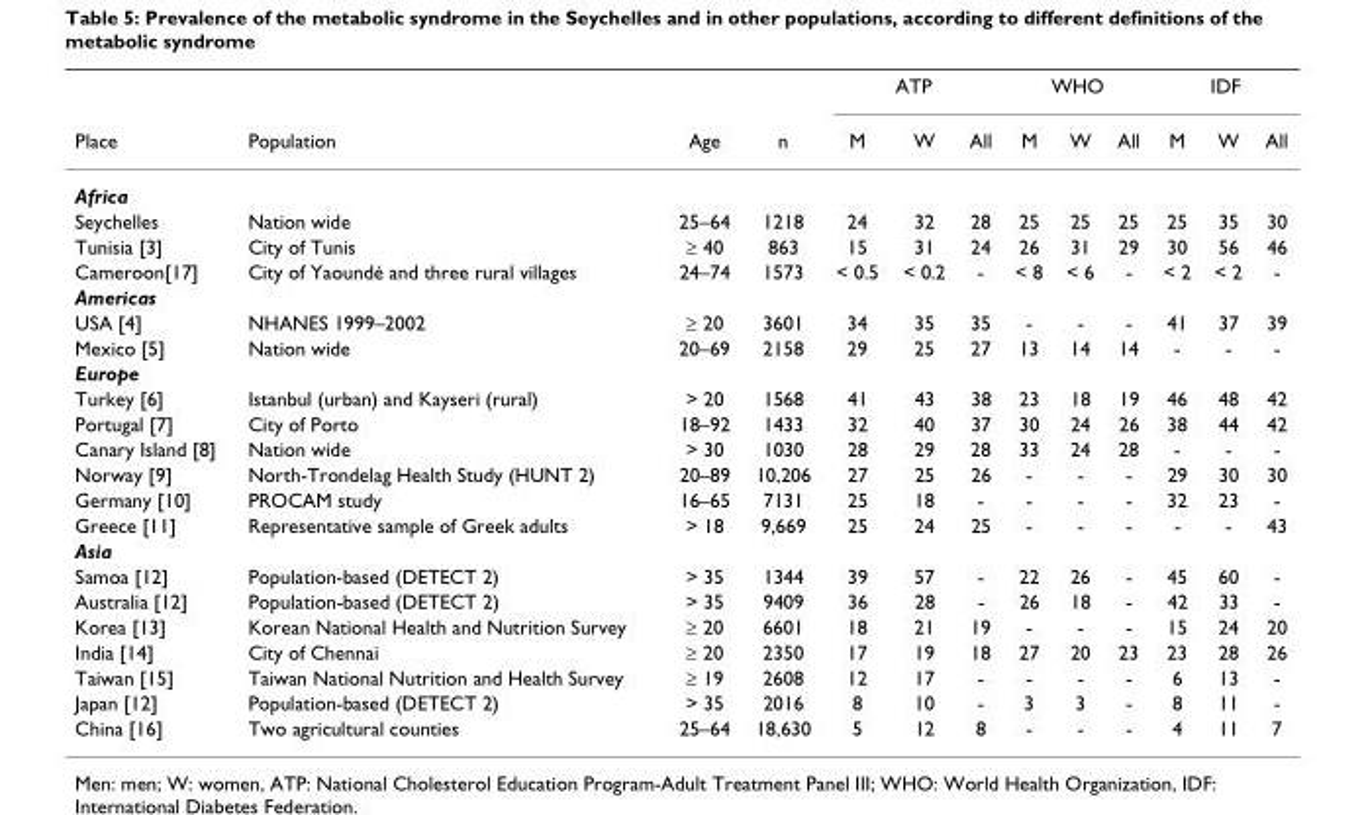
<table><thead><tr><td rowspan="2">Place</td><td rowspan="2">Population</td><td rowspan="2">Age</td><td rowspan="2">n</td><td colspan="3">ATP</td><td colspan="3">WHO</td><td colspan="3">IDF</td></tr><tr><td>M</td><td>W</td><td>All</td><td>M</td><td>W</td><td>All</td><td>M</td><td>W</td><td>All</td></tr></thead><tbody><tr><td colspan="13">Africa</td></tr><tr><td>Seychelles</td><td>Nation wide</td><td>25–64</td><td>1218</td><td>24</td><td>32</td><td>28</td><td>25</td><td>25</td><td>25</td><td>25</td><td>35</td><td>30</td></tr><tr><td>Tunisia [3]</td><td>City of Tunis</td><td>≥ 40</td><td>863</td><td>15</td><td>31</td><td>24</td><td>26</td><td>31</td><td>29</td><td>30</td><td>56</td><td>46</td></tr><tr><td>Cameroon[17]</td><td>City of Yaoundé and three rural villages</td><td>24–74</td><td>1573</td><td>&lt; 0.5</td><td>&lt; 0.2</td><td>-</td><td>&lt; 8</td><td>&lt; 6</td><td>-</td><td>&lt; 2</td><td>&lt; 2</td><td>-</td></tr><tr><td colspan="13">Americas</td></tr><tr><td>USA [4]</td><td>NHANES 1999–2002</td><td>≥ 20</td><td>3601</td><td>34</td><td>35</td><td>35</td><td>-</td><td>-</td><td>-</td><td>41</td><td>37</td><td>39</td></tr><tr><td>Mexico [5]</td><td>Nation wide</td><td>20–69</td><td>2158</td><td>29</td><td>25</td><td>27</td><td>13</td><td>14</td><td>14</td><td>-</td><td>-</td><td>-</td></tr><tr><td colspan="13">Europe</td></tr><tr><td>Turkey [6]</td><td>Istanbul (urban) and Kayseri (rural)</td><td>&gt; 20</td><td>1568</td><td>41</td><td>43</td><td>38</td><td>23</td><td>18</td><td>19</td><td>46</td><td>48</td><td>42</td></tr><tr><td>Portugal [7]</td><td>City of Porto</td><td>18–92</td><td>1433</td><td>32</td><td>40</td><td>37</td><td>30</td><td>24</td><td>26</td><td>38</td><td>44</td><td>42</td></tr><tr><td>Canary Island [8]</td><td>Nation wide</td><td>&gt; 30</td><td>1030</td><td>28</td><td>29</td><td>28</td><td>33</td><td>24</td><td>28</td><td>-</td><td>-</td><td>-</td></tr><tr><td>Norway [9]</td><td>North-Trondelag Health Study (HUNT 2)</td><td>20–89</td><td>10,206</td><td>27</td><td>25</td><td>26</td><td>-</td><td>-</td><td>-</td><td>29</td><td>30</td><td>30</td></tr><tr><td>Germany [10]</td><td>PROCAM study</td><td>16–65</td><td>7131</td><td>25</td><td>18</td><td>-</td><td>-</td><td>-</td><td>-</td><td>32</td><td>23</td><td>-</td></tr><tr><td>Greece [11]</td><td>Representative sample of Greek adults</td><td>&gt; 18</td><td>9,669</td><td>25</td><td>24</td><td>25</td><td>-</td><td>-</td><td>-</td><td>-</td><td>-</td><td>43</td></tr><tr><td colspan="13">Asia</td></tr><tr><td>Samoa [12]</td><td>Population-based (DETECT 2)</td><td>&gt; 35</td><td>1344</td><td>39</td><td>57</td><td>-</td><td>22</td><td>26</td><td>-</td><td>45</td><td>60</td><td>-</td></tr><tr><td>Australia [12]</td><td>Population-based (DETECT 2)</td><td>&gt; 35</td><td>9409</td><td>36</td><td>28</td><td>-</td><td>26</td><td>18</td><td>-</td><td>42</td><td>33</td><td>-</td></tr><tr><td>Korea [13]</td><td>Korean National Health and Nutrition Survey</td><td>≥ 20</td><td>6601</td><td>18</td><td>21</td><td>19</td><td>-</td><td>-</td><td>-</td><td>15</td><td>24</td><td>20</td></tr><tr><td>India [14]</td><td>City of Chennai</td><td>≥ 20</td><td>2350</td><td>17</td><td>19</td><td>18</td><td>27</td><td>20</td><td>23</td><td>23</td><td>28</td><td>26</td></tr><tr><td>Taiwan [15]</td><td>Taiwan National Nutrition and Health Survey</td><td>≥ 19</td><td>2608</td><td>12</td><td>17</td><td>-</td><td>-</td><td>-</td><td>-</td><td>6</td><td>13</td><td>-</td></tr><tr><td>Japan [12]</td><td>Population-based (DETECT 2)</td><td>&gt; 35</td><td>2016</td><td>8</td><td>10</td><td>-</td><td>3</td><td>3</td><td>-</td><td>8</td><td>11</td><td>-</td></tr><tr><td>China [16]</td><td>Two agricultural counties</td><td>25–64</td><td>18,630</td><td>5</td><td>12</td><td>8</td><td>-</td><td>-</td><td>-</td><td>4</td><td>11</td><td>7</td></tr></tbody></table>